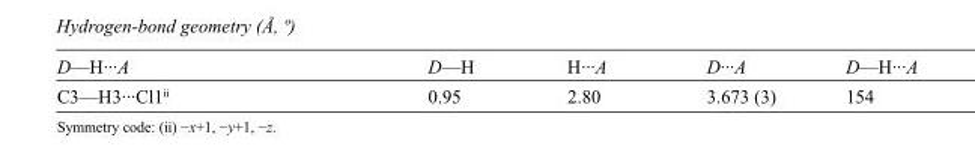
<table><tbody><tr><td>D—H···A</td><td>D—H</td><td>H···A</td><td>D···A</td><td>D—H···A</td></tr><tr><td>C3—H3···Cl1<sup>ii</sup></td><td>0.95</td><td>2.80</td><td>3.673 (3)</td><td>154</td></tr></tbody></table>